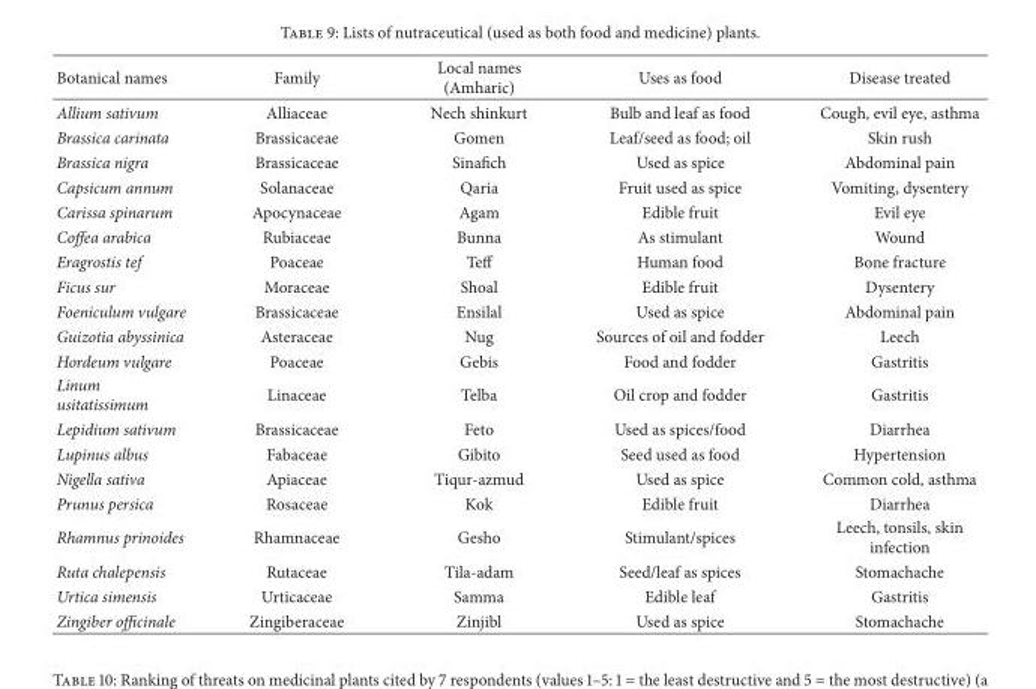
<table><thead><tr><td>Botanical names</td><td>Family</td><td>Local names (Amharic)</td><td>Uses as food</td><td>Disease treated</td></tr></thead><tbody><tr><td>Allium sativum</td><td>Alliaceae</td><td>Nech shinkurt</td><td>Bulb and leaf as food</td><td>Cough, evil eye, asthma</td></tr><tr><td>Brassica carinata</td><td>Brassicaceae</td><td>Gomen</td><td>Leaf/seed as food; oil</td><td>Skin rush</td></tr><tr><td>Brassica nigra</td><td>Brassicaceae</td><td>Sinafich</td><td>Used as spice</td><td>Abdominal pain</td></tr><tr><td>Capsicum annum</td><td>Solanaceae</td><td>Qaria</td><td>Fruit used as spice</td><td>Vomiting, dysentery</td></tr><tr><td>Carissa spinarum</td><td>Apocynaceae</td><td>Agam</td><td>Edible fruit</td><td>Evil eye</td></tr><tr><td>Coffea arabica</td><td>Rubiaceae</td><td>Bunna</td><td>As stimulant</td><td>Wound</td></tr><tr><td>Eragrostis tef</td><td>Poaceae</td><td>Teff</td><td>Human food</td><td>Bone fracture</td></tr><tr><td>Ficus sur</td><td>Moraceae</td><td>Shoal</td><td>Edible fruit</td><td>Dysentery</td></tr><tr><td>Foeniculum vulgare</td><td>Brassicaceae</td><td>Ensilal</td><td>Used as spice</td><td>Abdominal pain</td></tr><tr><td>Guizotia abyssinica</td><td>Asteraceae</td><td>Nug</td><td>Sources of oil and fodder</td><td>Leech</td></tr><tr><td>Hordeum vulgare</td><td>Poaceae</td><td>Gebis</td><td>Food and fodder</td><td>Gastritis</td></tr><tr><td>Linum usitatissimum</td><td>Linaceae</td><td>Telba</td><td>Oil crop and fodder</td><td>Gastritis</td></tr><tr><td>Lepidium sativum</td><td>Brassicaceae</td><td>Feto</td><td>Used as spices/food</td><td>Diarrhea</td></tr><tr><td>Lupinus albus</td><td>Fabaceae</td><td>Gibito</td><td>Seed used as food</td><td>Hypertension</td></tr><tr><td>Nigella sativa</td><td>Apiaceae</td><td>Tiqur-azmud</td><td>Used as spice</td><td>Common cold, asthma</td></tr><tr><td>Prunus persica</td><td>Rosaceae</td><td>Kok</td><td>Edible fruit</td><td>Diarrhea</td></tr><tr><td>Rhamnus prinoides</td><td>Rhamnaceae</td><td>Gesho</td><td>Stimulant/spices</td><td>Leech, tonsils, skin infection</td></tr><tr><td>Ruta chalepensis</td><td>Rutaceae</td><td>Tila-adam</td><td>Seed/leaf as spices</td><td>Stomachache</td></tr><tr><td>Urtica simensis</td><td>Urticaceae</td><td>Samma</td><td>Edible leaf</td><td>Gastritis</td></tr><tr><td>Zingiber officinale</td><td>Zingiberaceae</td><td>Zinjibl</td><td>Used as spice</td><td>Stomachache</td></tr></tbody></table>